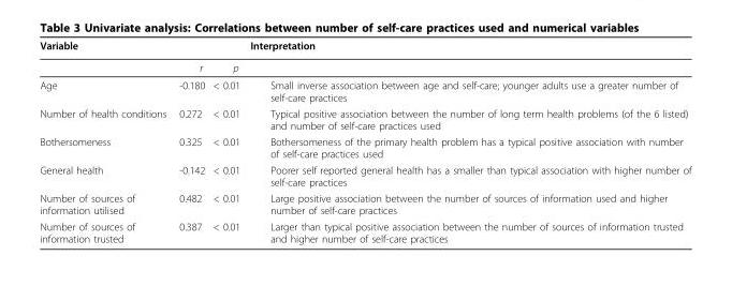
<table><thead><tr><td>Variable</td><td></td><td></td><td>Interpretation</td></tr></thead><tbody><tr><td></td><td>r</td><td>p</td><td></td></tr><tr><td>Age</td><td>-0.180</td><td>&lt; 0.01</td><td>Small inverse association between age and self-care; younger adults use a greater number of self-care practices</td></tr><tr><td>Number of health conditions</td><td>0.272</td><td>&lt; 0.01</td><td>Typical positive association between the number of long term health problems (of the 6 listed) and number of self-care practices used</td></tr><tr><td>Bothersomeness</td><td>0.325</td><td>&lt; 0.01</td><td>Bothersomeness of the primary health problem has a typical positive association with number of self-care practices used</td></tr><tr><td>General health</td><td>-0.142</td><td>&lt; 0.01</td><td>Poorer self reported general health has a smaller than typical association with higher number of self-care practices</td></tr><tr><td>Number of sources of information utilised</td><td>0.482</td><td>&lt; 0.01</td><td>Large positive association between the number of sources of information used and higher number of self-care practices</td></tr><tr><td>Number of sources of information trusted</td><td>0.387</td><td>&lt; 0.01</td><td>Larger than typical positive association between the number of sources of information trusted and higher number of self-care practices</td></tr></tbody></table>